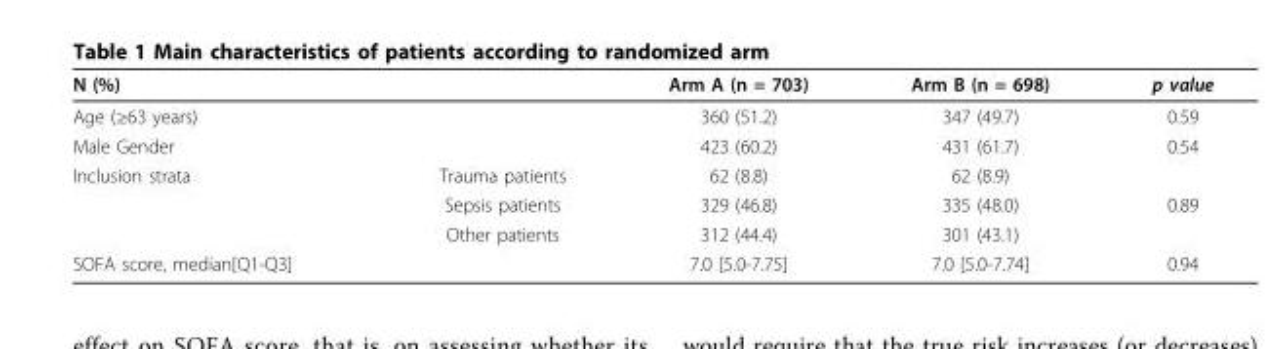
<table><thead><tr><td>N (%)</td><td></td><td>Arm A (n = 703)</td><td>Arm B (n = 698)</td><td>p value</td></tr></thead><tbody><tr><td>Age (≥63 years)</td><td></td><td>360 (51.2)</td><td>347 (49.7)</td><td>0.59</td></tr><tr><td>Male Gender</td><td></td><td>423 (60.2)</td><td>431 (61.7)</td><td>0.54</td></tr><tr><td rowspan="3">Inclusion strata</td><td>Trauma patients</td><td>62 (8.8)</td><td>62 (8.9)</td><td></td></tr><tr><td>Sepsis patients</td><td>329 (46.8)</td><td>335 (48.0)</td><td>0.89</td></tr><tr><td>Other patients</td><td>312 (44.4)</td><td>301 (43.1)</td><td></td></tr><tr><td>SOFA score, median[Q1-Q3]</td><td></td><td>7.0 [5.0-7.75]</td><td>7.0 [5.0-7.74]</td><td>0.94</td></tr></tbody></table>